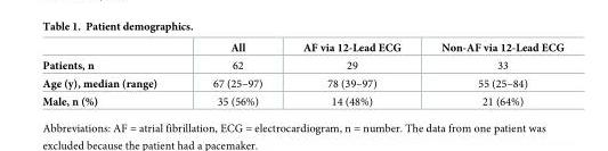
<table><thead><tr><td></td><td>All</td><td>AF via 12-Lead ECG</td><td>Non-AF via 12-Lead ECG</td></tr></thead><tbody><tr><td>Patients, n</td><td>62</td><td>29</td><td>33</td></tr><tr><td>Age (y), median (range)</td><td>67 (25–97)</td><td>78 (39–97)</td><td>55 (25–84)</td></tr><tr><td>Male, n (%)</td><td>35 (56%)</td><td>14 (48%)</td><td>21 (64%)</td></tr></tbody></table>